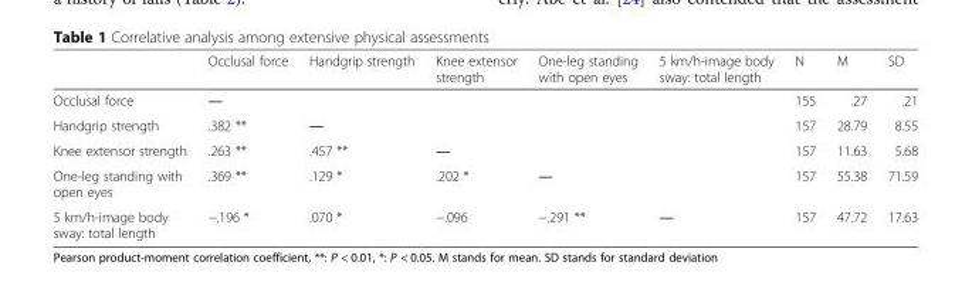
<table><thead><tr><td></td><td>Occlusal force</td><td>Handgrip strength</td><td>Knee extensor strength</td><td>One-leg standing with open eyes</td><td>5 km/h-image body sway: total length</td><td>N</td><td>M</td><td>SD</td></tr></thead><tbody><tr><td>Occlusal force</td><td>―</td><td></td><td></td><td></td><td></td><td>155</td><td>.27</td><td>.21</td></tr><tr><td>Handgrip strength</td><td>.382 **</td><td>―</td><td></td><td></td><td></td><td>157</td><td>28.79</td><td>8.55</td></tr><tr><td>Knee extensor strength</td><td>.263 **</td><td>.457 **</td><td>―</td><td></td><td></td><td>157</td><td>11.63</td><td>5.68</td></tr><tr><td>One-leg standing with open eyes</td><td>.369 **</td><td>.129 *</td><td>.202 *</td><td>―</td><td></td><td>157</td><td>55.38</td><td>71.59</td></tr><tr><td>5 km/h-image body sway: total length</td><td>−.196 *</td><td>.070 *</td><td>−.096</td><td>−.291 **</td><td>―</td><td>157</td><td>47.72</td><td>17.63</td></tr></tbody></table>